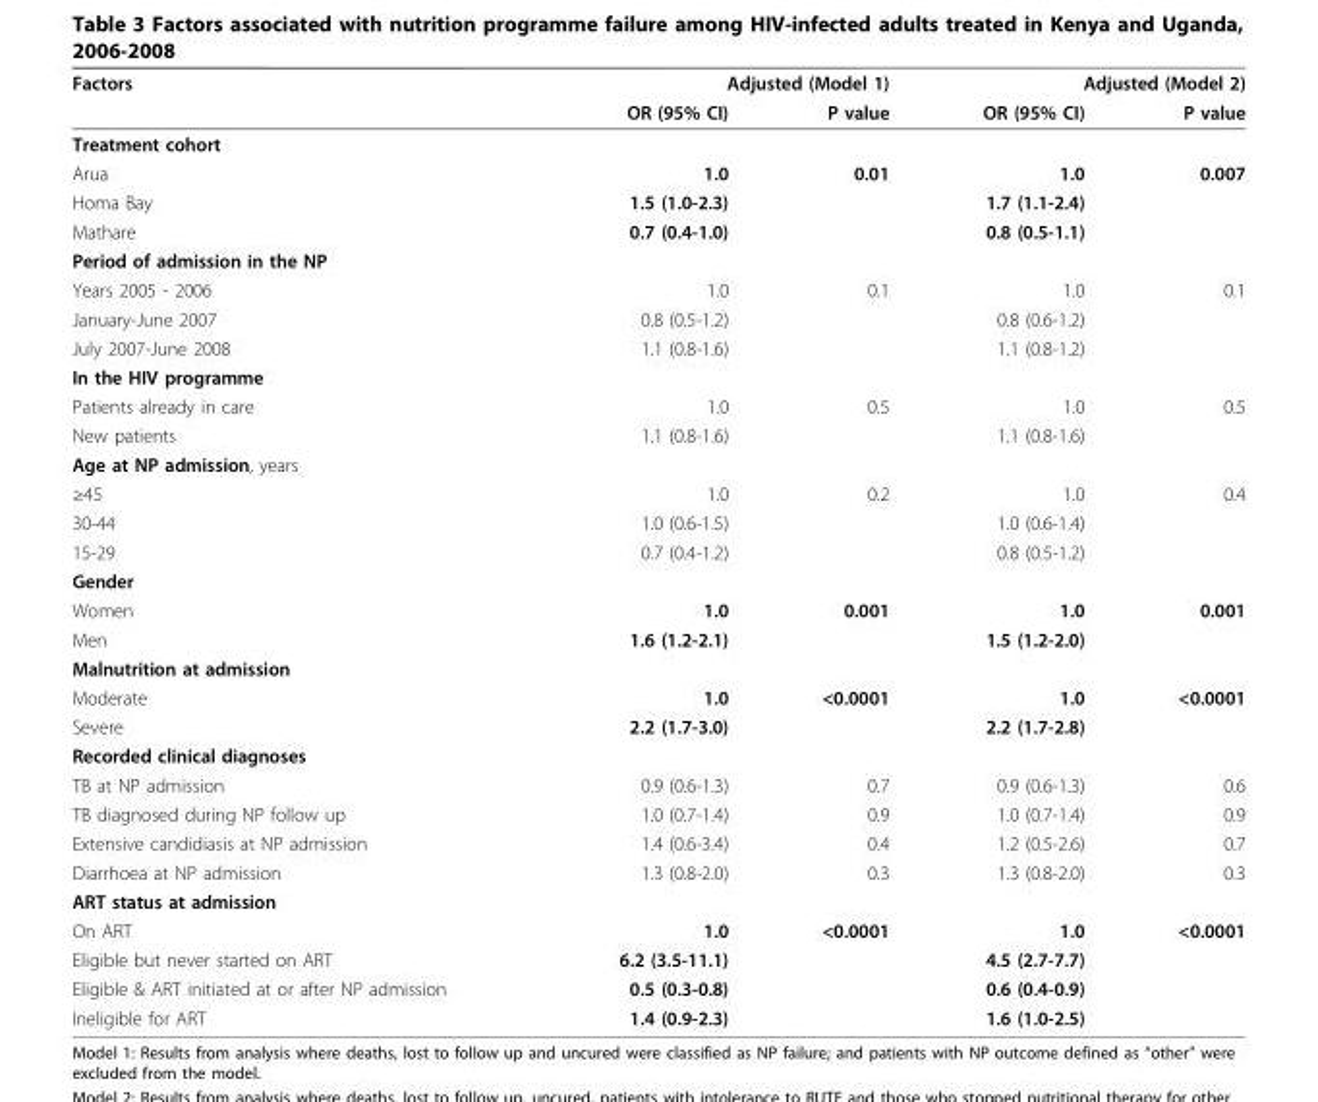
<table><thead><tr><td rowspan="2">Factors</td><td colspan="2">Adjusted (Model 1)</td><td colspan="2">Adjusted (Model 2)</td></tr><tr><td>OR (95% CI)</td><td>P value</td><td>OR (95% CI)</td><td>P value</td></tr></thead><tbody><tr><td colspan="5">Treatment cohort</td></tr><tr><td>Arua</td><td>1.0</td><td>0.01</td><td>1.0</td><td>0.007</td></tr><tr><td>Homa Bay</td><td>1.5 (1.0-2.3)</td><td></td><td>1.7 (1.1-2.4)</td><td></td></tr><tr><td>Mathare</td><td>0.7 (0.4-1.0)</td><td></td><td>0.8 (0.5-1.1)</td><td></td></tr><tr><td colspan="5">Period of admission in the NP</td></tr><tr><td>Years 2005 - 2006</td><td>1.0</td><td>0.1</td><td>1.0</td><td>0.1</td></tr><tr><td>January-June 2007</td><td>0.8 (0.5-1.2)</td><td></td><td>0.8 (0.6-1.2)</td><td></td></tr><tr><td>July 2007-June 2008</td><td>1.1 (0.8-1.6)</td><td></td><td>1.1 (0.8-1.2)</td><td></td></tr><tr><td colspan="5">In the HIV programme</td></tr><tr><td>Patients already in care</td><td>1.0</td><td>0.5</td><td>1.0</td><td>0.5</td></tr><tr><td>New patients</td><td>1.1 (0.8-1.6)</td><td></td><td>1.1 (0.8-1.6)</td><td></td></tr><tr><td colspan="5">Age at NP admission, years</td></tr><tr><td>≥45</td><td>1.0</td><td>0.2</td><td>1.0</td><td>0.4</td></tr><tr><td>30-44</td><td>1.0 (0.6-1.5)</td><td></td><td>1.0 (0.6-1.4)</td><td></td></tr><tr><td>15-29</td><td>0.7 (0.4-1.2)</td><td></td><td>0.8 (0.5-1.2)</td><td></td></tr><tr><td colspan="5">Gender</td></tr><tr><td>Women</td><td>1.0</td><td>0.001</td><td>1.0</td><td>0.001</td></tr><tr><td>Men</td><td>1.6 (1.2-2.1)</td><td></td><td>1.5 (1.2-2.0)</td><td></td></tr><tr><td colspan="5">Malnutrition at admission</td></tr><tr><td>Moderate</td><td>1.0</td><td>&lt;0.0001</td><td>1.0</td><td>&lt;0.0001</td></tr><tr><td>Severe</td><td>2.2 (1.7-3.0)</td><td></td><td>2.2 (1.7-2.8)</td><td></td></tr><tr><td colspan="5">Recorded clinical diagnoses</td></tr><tr><td>TB at NP admission</td><td>0.9 (0.6-1.3)</td><td>0.7</td><td>0.9 (0.6-1.3)</td><td>0.6</td></tr><tr><td>TB diagnosed during NP follow up</td><td>1.0 (0.7-1.4)</td><td>0.9</td><td>1.0 (0.7-1.4)</td><td>0.9</td></tr><tr><td>Extensive candidiasis at NP admission</td><td>1.4 (0.6-3.4)</td><td>0.4</td><td>1.2 (0.5-2.6)</td><td>0.7</td></tr><tr><td>Diarrhoea at NP admission</td><td>1.3 (0.8-2.0)</td><td>0.3</td><td>1.3 (0.8-2.0)</td><td>0.3</td></tr><tr><td colspan="5">ART status at admission</td></tr><tr><td>On ART</td><td>1.0</td><td>&lt;0.0001</td><td>1.0</td><td>&lt;0.0001</td></tr><tr><td>Eligible but never started on ART</td><td>6.2 (3.5-11.1)</td><td></td><td>4.5 (2.7-7.7)</td><td></td></tr><tr><td>Eligible &amp; ART initiated at or after NP admission</td><td>0.5 (0.3-0.8)</td><td></td><td>0.6 (0.4-0.9)</td><td></td></tr><tr><td>Ineligible for ART</td><td>1.4 (0.9-2.3)</td><td></td><td>1.6 (1.0-2.5)</td><td></td></tr></tbody></table>